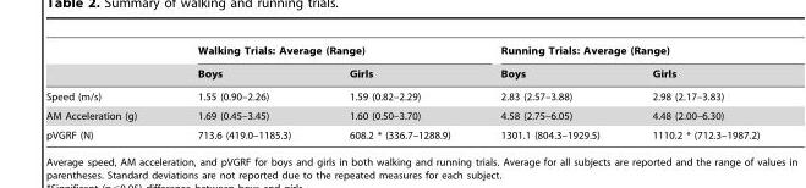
<table><thead><tr><td rowspan="2"></td><td colspan="2">Walking Trials: Average (Range)</td><td colspan="2">Running Trials: Average (Range)</td></tr><tr><td>Boys</td><td>Girls</td><td>Boys</td><td>Girls</td></tr></thead><tbody><tr><td>Speed (m/s)</td><td>1.55 (0.90–2.26)</td><td>1.59 (0.82–2.29)</td><td>2.83 (2.57–3.88)</td><td>2.98 (2.17–3.83)</td></tr><tr><td>AM Acceleration (g)</td><td>1.69 (0.45–3.45)</td><td>1.60 (0.50–3.70)</td><td>4.58 (2.75–6.05)</td><td>4.48 (2.00–6.30)</td></tr><tr><td>pVGRF (N)</td><td>713.6 (419.0–1185.3)</td><td>608.2 * (336.7–1288.9)</td><td>1301.1 (804.3–1929.5)</td><td>1110.2 * (712.3–1987.2)</td></tr></tbody></table>